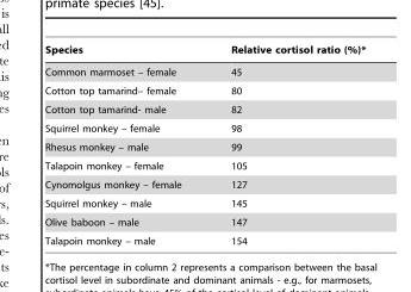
<table><thead><tr><td>Species</td><td>Relative cortisol ratio (%)*</td></tr></thead><tbody><tr><td>Common marmoset – female</td><td>45</td></tr><tr><td>Cotton top tamarind– female</td><td>80</td></tr><tr><td>Cotton top tamarind- male</td><td>82</td></tr><tr><td>Squirrel monkey – female</td><td>98</td></tr><tr><td>Rhesus monkey – male</td><td>99</td></tr><tr><td>Talapoin monkey – female</td><td>105</td></tr><tr><td>Cynomolgus monkey – female</td><td>127</td></tr><tr><td>Squirrel monkey – male</td><td>145</td></tr><tr><td>Olive baboon – male</td><td>147</td></tr><tr><td>Talapoin monkey – male</td><td>154</td></tr></tbody></table>